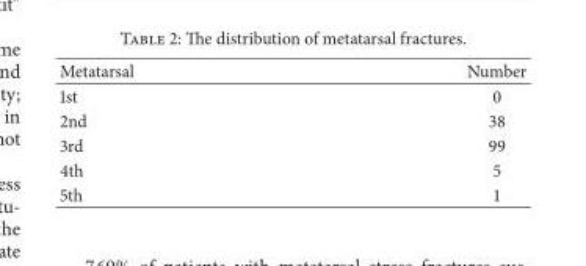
<table><thead><tr><td>Metatarsal</td><td>Number</td></tr></thead><tbody><tr><td>1st</td><td>0</td></tr><tr><td>2nd</td><td>38</td></tr><tr><td>3rd</td><td>99</td></tr><tr><td>4th</td><td>5</td></tr><tr><td>5th</td><td>1</td></tr></tbody></table>